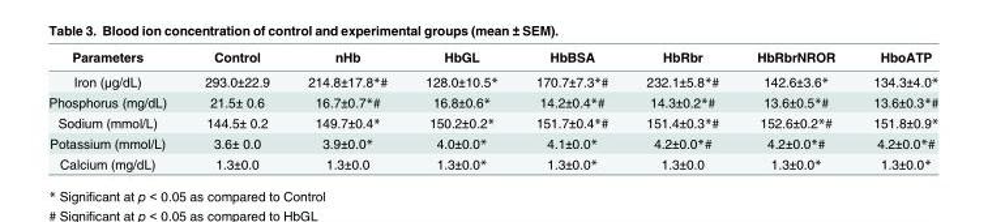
<table><thead><tr><td>Parameters</td><td>Control</td><td>nHb</td><td>HbGL</td><td>HbBSA</td><td>HbRbr</td><td>HbRbrNROR</td><td>HboATP</td></tr></thead><tbody><tr><td>Iron (μg/dL)</td><td>293.0±22.9</td><td>214.8±17.8*#</td><td>128.0±10.5*</td><td>170.7±7.3*#</td><td>232.1±5.8*#</td><td>142.6±3.6*</td><td>134.3±4.0*</td></tr><tr><td>Phosphorus (mg/dL)</td><td>21.5± 0.6</td><td>16.7±0.7*#</td><td>16.8±0.6*</td><td>14.2±0.4*#</td><td>14.3±0.2*#</td><td>13.6±0.5*#</td><td>13.6±0.3*#</td></tr><tr><td>Sodium (mmol/L)</td><td>144.5± 0.2</td><td>149.7±0.4*</td><td>150.2±0.2*</td><td>151.7±0.4*#</td><td>151.4±0.3*#</td><td>152.6±0.2*#</td><td>151.8±0.9*</td></tr><tr><td>Potassium (mmol/L)</td><td>3.6± 0.0</td><td>3.9±0.0*</td><td>4.0±0.0*</td><td>4.1±0.0*</td><td>4.2±0.0*#</td><td>4.2±0.0*#</td><td>4.2±0.0*#</td></tr><tr><td>Calcium (mg/dL)</td><td>1.3±0.0</td><td>1.3±0.0</td><td>1.3±0.0*</td><td>1.3±0.0*</td><td>1.3±0.0</td><td>1.3±0.0*</td><td>1.3±0.0*</td></tr></tbody></table>